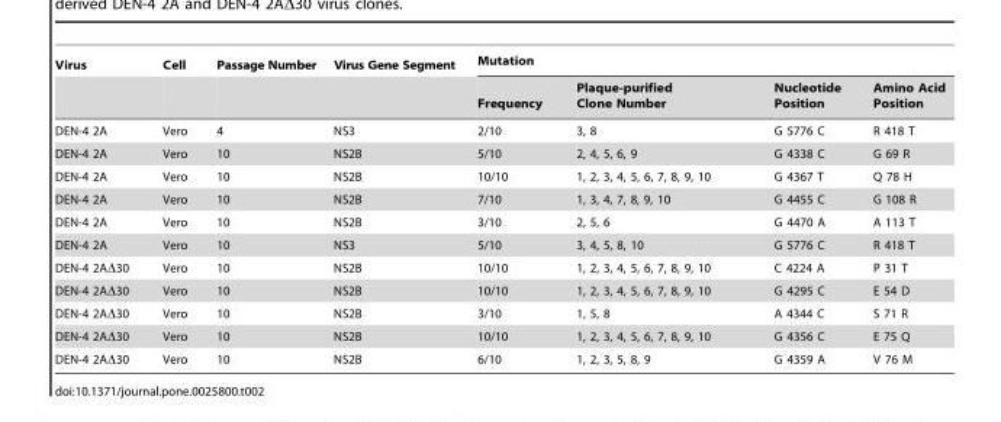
<table><thead><tr><td rowspan="2">Virus</td><td rowspan="2">Cell</td><td rowspan="2">Passage Number</td><td rowspan="2">Virus Gene Segment</td><td colspan="4">Mutation</td></tr><tr><td>Frequency</td><td>Plaque-purified Clone Number</td><td>Nucleotide Position</td><td>Amino Acid Position</td></tr></thead><tbody><tr><td>DEN-4 2A</td><td>Vero</td><td>4</td><td>NS3</td><td>2/10</td><td>3, 8</td><td>G 5776 C</td><td>R 418 T</td></tr><tr><td>DEN-4 2A</td><td>Vero</td><td>10</td><td>NS2B</td><td>5/10</td><td>2, 4, 5, 6, 9</td><td>G 4338 C</td><td>G 69 R</td></tr><tr><td>DEN-4 2A</td><td>Vero</td><td>10</td><td>NS2B</td><td>10/10</td><td>1, 2, 3, 4, 5, 6, 7, 8, 9, 10</td><td>G 4367 T</td><td>Q 78 H</td></tr><tr><td>DEN-4 2A</td><td>Vero</td><td>10</td><td>NS2B</td><td>7/10</td><td>1, 3, 4, 7, 8, 9, 10</td><td>G 4455 C</td><td>G 108 R</td></tr><tr><td>DEN-4 2A</td><td>Vero</td><td>10</td><td>NS2B</td><td>3/10</td><td>2, 5, 6</td><td>G 4470 A</td><td>A 113 T</td></tr><tr><td>DEN-4 2A</td><td>Vero</td><td>10</td><td>NS3</td><td>5/10</td><td>3, 4, 5, 8, 10</td><td>G 5776 C</td><td>R 418 T</td></tr><tr><td>DEN-4 2AΔ30</td><td>Vero</td><td>10</td><td>NS2B</td><td>10/10</td><td>1, 2, 3, 4, 5, 6, 7, 8, 9, 10</td><td>C 4224 A</td><td>P 31 T</td></tr><tr><td>DEN-4 2AΔ30</td><td>Vero</td><td>10</td><td>NS2B</td><td>10/10</td><td>1, 2, 3, 4, 5, 6, 7, 8, 9, 10</td><td>G 4295 C</td><td>E 54 D</td></tr><tr><td>DEN-4 2AΔ30</td><td>Vero</td><td>10</td><td>NS2B</td><td>3/10</td><td>1, 5, 8</td><td>A 4344 C</td><td>S 71 R</td></tr><tr><td>DEN-4 2AΔ30</td><td>Vero</td><td>10</td><td>NS2B</td><td>10/10</td><td>1, 2, 3, 4, 5, 6, 7, 8, 9, 10</td><td>G 4356 C</td><td>E 75 Q</td></tr><tr><td>DEN-4 2AΔ30</td><td>Vero</td><td>10</td><td>NS2B</td><td>6/10</td><td>1, 2, 3, 5, 8, 9</td><td>G 4359 A</td><td>V 76 M</td></tr></tbody></table>